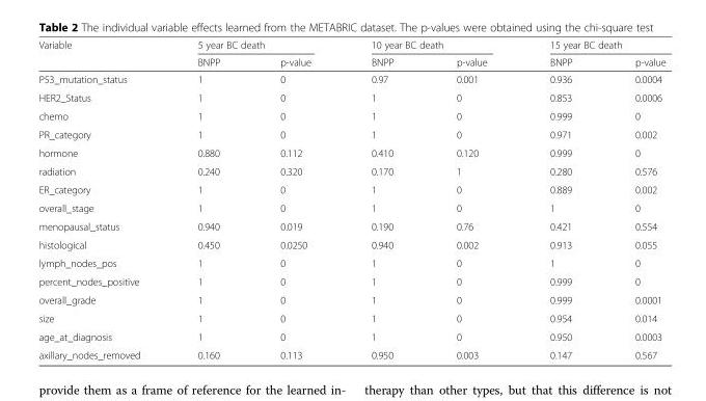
<table><thead><tr><td rowspan="2">Variable</td><td colspan="2">5 year BC death</td><td colspan="2">10 year BC death</td><td colspan="2">15 year BC death</td></tr><tr><td>BNPP</td><td>p-value</td><td>BNPP</td><td>p-value</td><td>BNPP</td><td>p-value</td></tr></thead><tbody><tr><td>P53_mutation_status</td><td>1</td><td>0</td><td>0.97</td><td>0.001</td><td>0.936</td><td>0.0004</td></tr><tr><td>HER2_Status</td><td>1</td><td>0</td><td>1</td><td>0</td><td>0.853</td><td>0.0006</td></tr><tr><td>chemo</td><td>1</td><td>0</td><td>1</td><td>0</td><td>0.999</td><td>0</td></tr><tr><td>PR_category</td><td>1</td><td>0</td><td>1</td><td>0</td><td>0.971</td><td>0.002</td></tr><tr><td>hormone</td><td>0.880</td><td>0.112</td><td>0.410</td><td>0.120</td><td>0.999</td><td>0</td></tr><tr><td>radiation</td><td>0.240</td><td>0.320</td><td>0.170</td><td>1</td><td>0.280</td><td>0.576</td></tr><tr><td>ER_category</td><td>1</td><td>0</td><td>1</td><td>0</td><td>0.889</td><td>0.002</td></tr><tr><td>overall_stage</td><td>1</td><td>0</td><td>1</td><td>0</td><td>1</td><td>0</td></tr><tr><td>menopausal_status</td><td>0.940</td><td>0.019</td><td>0.190</td><td>0.76</td><td>0.421</td><td>0.554</td></tr><tr><td>histological</td><td>0.450</td><td>0.0250</td><td>0.940</td><td>0.002</td><td>0.913</td><td>0.055</td></tr><tr><td>lymph_nodes_pos</td><td>1</td><td>0</td><td>1</td><td>0</td><td>1</td><td>0</td></tr><tr><td>percent_nodes_positive</td><td>1</td><td>0</td><td>1</td><td>0</td><td>0.999</td><td>0</td></tr><tr><td>overall_grade</td><td>1</td><td>0</td><td>1</td><td>0</td><td>0.999</td><td>0.0001</td></tr><tr><td>size</td><td>1</td><td>0</td><td>1</td><td>0</td><td>0.954</td><td>0.014</td></tr><tr><td>age_at_diagnosis</td><td>1</td><td>0</td><td>1</td><td>0</td><td>0.950</td><td>0.0003</td></tr><tr><td>axillary_nodes_removed</td><td>0.160</td><td>0.113</td><td>0.950</td><td>0.003</td><td>0.147</td><td>0.567</td></tr></tbody></table>